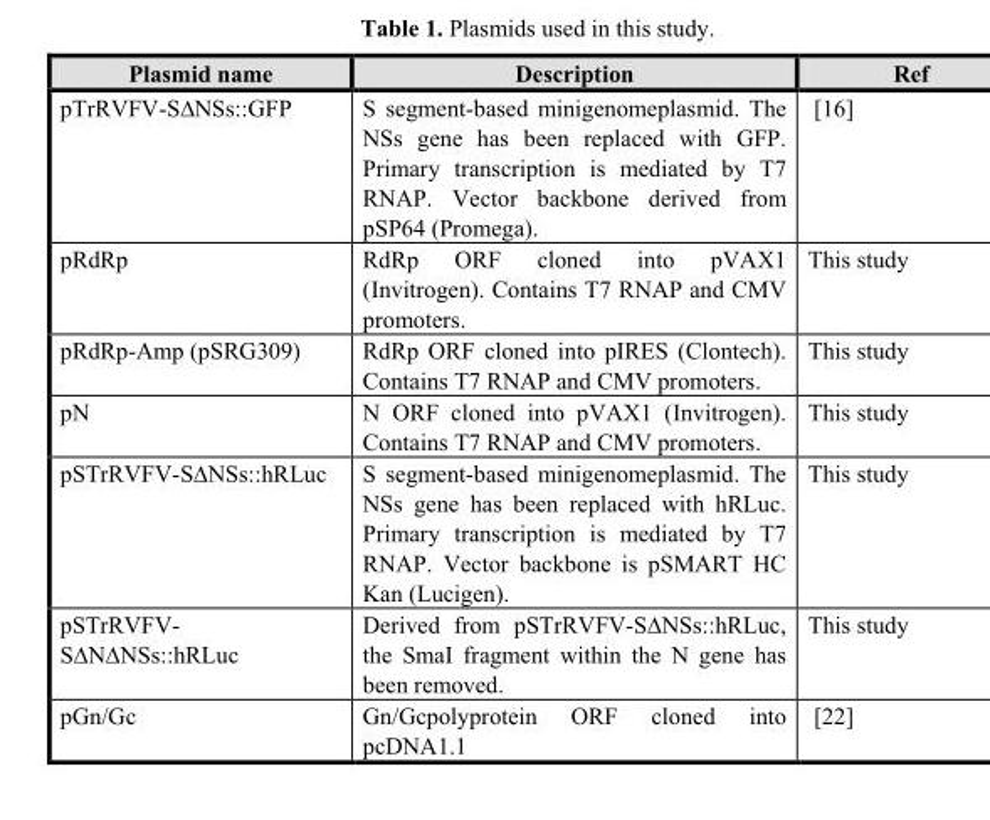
<table><thead><tr><td>Plasmid name</td><td>Description</td><td>Ref</td></tr></thead><tbody><tr><td>pTrRVFV-S∆NSs::GFP</td><td>S segment-based minigenomeplasmid. The NSs gene has been replaced with GFP. Primary transcription is mediated by T7 RNAP. Vector backbone derived from pSP64 (Promega).</td><td>[16]</td></tr><tr><td>pRdRp</td><td>RdRp ORF cloned into pVAX1 (Invitrogen). Contains T7 RNAP and CMV promoters.</td><td>This study</td></tr><tr><td>pRdRp-Amp (pSRG309)</td><td>RdRp ORF cloned into pIRES (Clontech). Contains T7 RNAP and CMV promoters.</td><td>This study</td></tr><tr><td>pN</td><td>N ORF cloned into pVAX1 (Invitrogen). Contains T7 RNAP and CMV promoters.</td><td>This study</td></tr><tr><td>pSTrRVFV-S∆NSs::hRLuc</td><td>S segment-based minigenomeplasmid. The NSs gene has been replaced with hRLuc. Primary transcription is mediated by T7 RNAP. Vector backbone is pSMART HC Kan (Lucigen).</td><td>This study</td></tr><tr><td>pSTrRVFV- S∆N∆NSs::hRLuc</td><td>Derived from pSTrRVFV-S∆NSs::hRLuc, the SmaI fragment within the N gene has been removed.</td><td>This study</td></tr><tr><td>pGn/Gc</td><td>Gn/Gcpolyprotein ORF cloned into pcDNA1.1</td><td>[22]</td></tr></tbody></table>